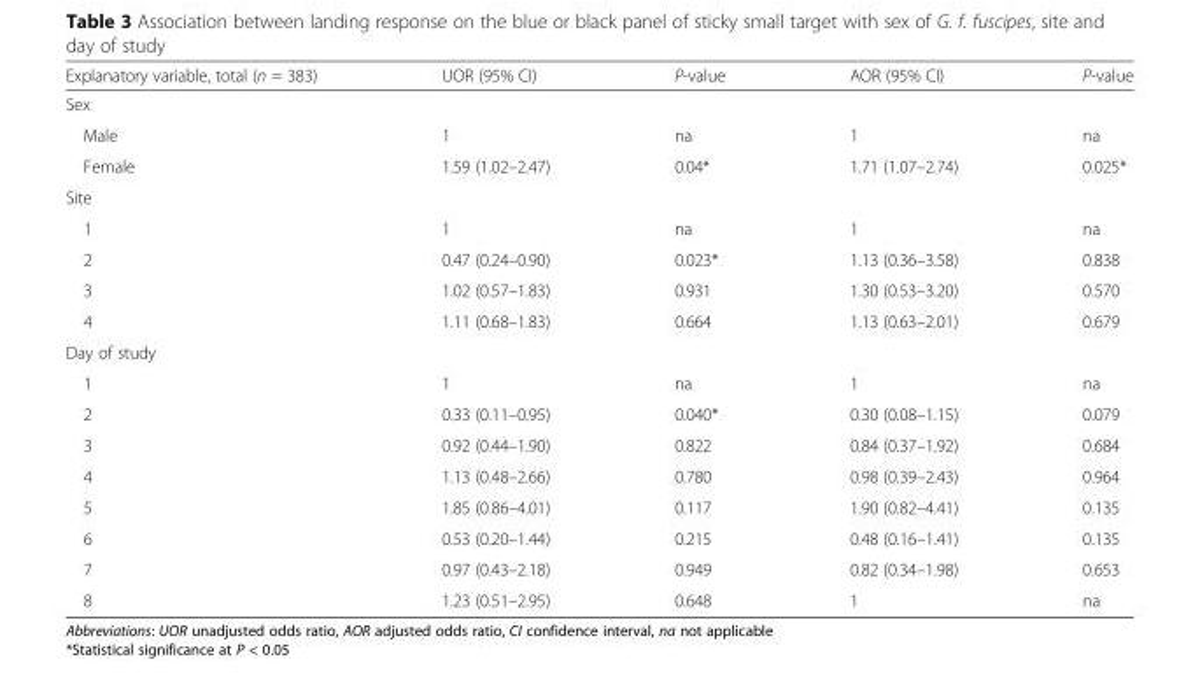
<table><thead><tr><td>Explanatory variable, total (n = 383)</td><td>UOR (95% CI)</td><td>P-value</td><td>AOR (95% CI)</td><td>P-value</td></tr></thead><tbody><tr><td colspan="5">Sex</td></tr><tr><td>Male</td><td>1</td><td>na</td><td>1</td><td>na</td></tr><tr><td>Female</td><td>1.59 (1.02–2.47)</td><td>0.04*</td><td>1.71 (1.07–2.74)</td><td>0.025*</td></tr><tr><td colspan="5">Site</td></tr><tr><td>1</td><td>1</td><td>na</td><td>1</td><td>na</td></tr><tr><td>2</td><td>0.47 (0.24–0.90)</td><td>0.023*</td><td>1.13 (0.36–3.58)</td><td>0.838</td></tr><tr><td>3</td><td>1.02 (0.57–1.83)</td><td>0.931</td><td>1.30 (0.53–3.20)</td><td>0.570</td></tr><tr><td>4</td><td>1.11 (0.68–1.83)</td><td>0.664</td><td>1.13 (0.63–2.01)</td><td>0.679</td></tr><tr><td colspan="5">Day of study</td></tr><tr><td>1</td><td>1</td><td>na</td><td>1</td><td>na</td></tr><tr><td>2</td><td>0.33 (0.11–0.95)</td><td>0.040*</td><td>0.30 (0.08–1.15)</td><td>0.079</td></tr><tr><td>3</td><td>0.92 (0.44–1.90)</td><td>0.822</td><td>0.84 (0.37–1.92)</td><td>0.684</td></tr><tr><td>4</td><td>1.13 (0.48–2.66)</td><td>0.780</td><td>0.98 (0.39–2.43)</td><td>0.964</td></tr><tr><td>5</td><td>1.85 (0.86–4.01)</td><td>0.117</td><td>1.90 (0.82–4.41)</td><td>0.135</td></tr><tr><td>6</td><td>0.53 (0.20–1.44)</td><td>0.215</td><td>0.48 (0.16–1.41)</td><td>0.135</td></tr><tr><td>7</td><td>0.97 (0.43–2.18)</td><td>0.949</td><td>0.82 (0.34–1.98)</td><td>0.653</td></tr><tr><td>8</td><td>1.23 (0.51–2.95)</td><td>0.648</td><td>1</td><td>na</td></tr></tbody></table>